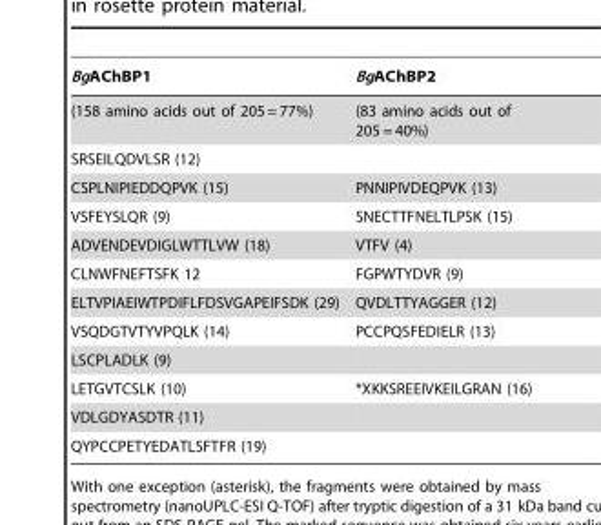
<table><thead><tr><td>BgAChBP1</td><td>BgAChBP2</td></tr></thead><tbody><tr><td>(158 amino acids out of 205 = 77%)</td><td>(83 amino acids out of 205 = 40%)</td></tr><tr><td colspan="2">SRSEILQDVLSR (12)</td></tr><tr><td>CSPLNIPIEDDQPVK (15)</td><td>PNNIPIVDEQPVK (13)</td></tr><tr><td>VSFEYSLQR (9)</td><td>SNECTTFNELTLPSK (15)</td></tr><tr><td>ADVENDEVDIGLWTTLVW (18)</td><td>VTFV (4)</td></tr><tr><td>CLNWFNEFTSFK 12</td><td>FGPWTYDVR (9)</td></tr><tr><td>ELTVPIAEIWTPDIFLFDSVGAPEIFSDK (29)</td><td>QVDLTTYAGGER (12)</td></tr><tr><td>VSQDGTVTYVPQLK (14)</td><td>PCCPQSFEDIELR (13)</td></tr><tr><td colspan="2">LSCPLADLK (9)</td></tr><tr><td>LETGVTCSLK (10)</td><td>*XKKSREEIVKEILGRAN (16)</td></tr><tr><td colspan="2">VDLGDYASDTR (11)</td></tr><tr><td>QYPCCPETYEDATLSFTFR (19)</td><td></td></tr></tbody></table>